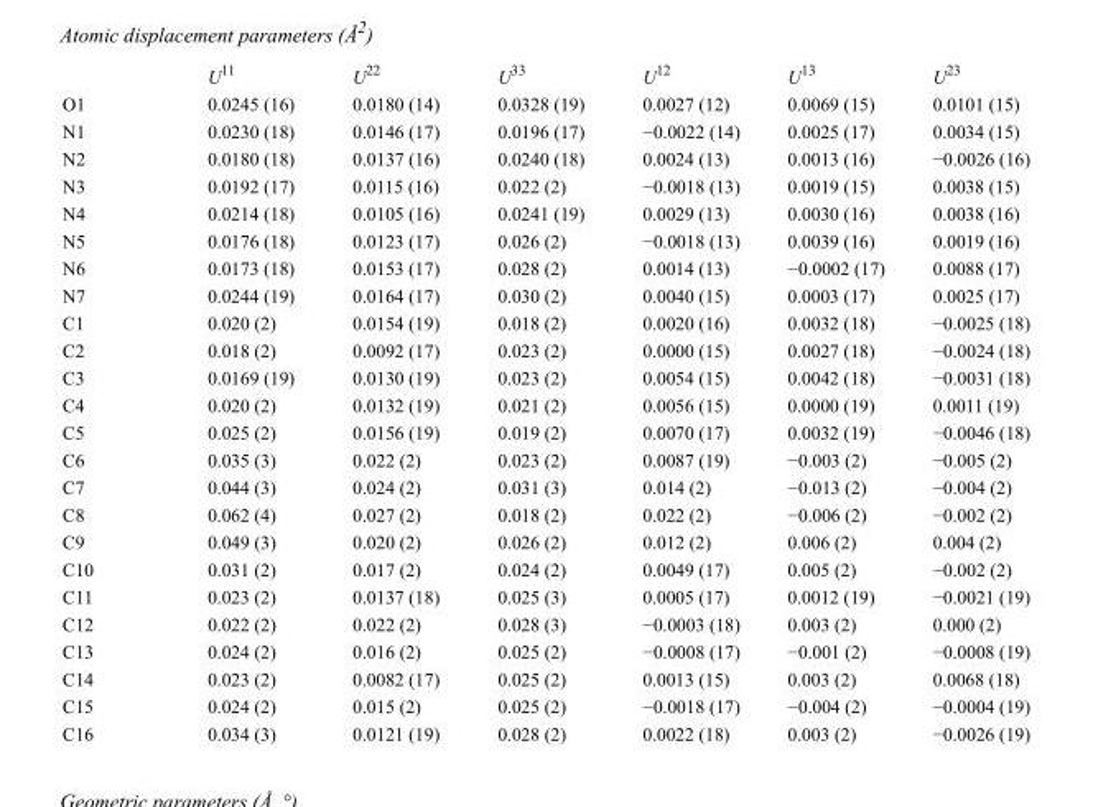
<table><thead><tr><td></td><td>U<sup>11</sup></td><td>U<sup>22</sup></td><td>U<sup>33</sup></td><td>U<sup>12</sup></td><td>U<sup>13</sup></td><td>U<sup>23</sup></td></tr></thead><tbody><tr><td>O1</td><td>0.0245 (16)</td><td>0.0180 (14)</td><td>0.0328 (19)</td><td>0.0027 (12)</td><td>0.0069 (15)</td><td>0.0101 (15)</td></tr><tr><td>N1</td><td>0.0230 (18)</td><td>0.0146 (17)</td><td>0.0196 (17)</td><td>−0.0022 (14)</td><td>0.0025 (17)</td><td>0.0034 (15)</td></tr><tr><td>N2</td><td>0.0180 (18)</td><td>0.0137 (16)</td><td>0.0240 (18)</td><td>0.0024 (13)</td><td>0.0013 (16)</td><td>−0.0026 (16)</td></tr><tr><td>N3</td><td>0.0192 (17)</td><td>0.0115 (16)</td><td>0.022 (2)</td><td>−0.0018 (13)</td><td>0.0019 (15)</td><td>0.0038 (15)</td></tr><tr><td>N4</td><td>0.0214 (18)</td><td>0.0105 (16)</td><td>0.0241 (19)</td><td>0.0029 (13)</td><td>0.0030 (16)</td><td>0.0038 (16)</td></tr><tr><td>N5</td><td>0.0176 (18)</td><td>0.0123 (17)</td><td>0.026 (2)</td><td>−0.0018 (13)</td><td>0.0039 (16)</td><td>0.0019 (16)</td></tr><tr><td>N6</td><td>0.0173 (18)</td><td>0.0153 (17)</td><td>0.028 (2)</td><td>0.0014 (13)</td><td>−0.0002 (17)</td><td>0.0088 (17)</td></tr><tr><td>N7</td><td>0.0244 (19)</td><td>0.0164 (17)</td><td>0.030 (2)</td><td>0.0040 (15)</td><td>0.0003 (17)</td><td>0.0025 (17)</td></tr><tr><td>C1</td><td>0.020 (2)</td><td>0.0154 (19)</td><td>0.018 (2)</td><td>0.0020 (16)</td><td>0.0032 (18)</td><td>−0.0025 (18)</td></tr><tr><td>C2</td><td>0.018 (2)</td><td>0.0092 (17)</td><td>0.023 (2)</td><td>0.0000 (15)</td><td>0.0027 (18)</td><td>−0.0024 (18)</td></tr><tr><td>C3</td><td>0.0169 (19)</td><td>0.0130 (19)</td><td>0.023 (2)</td><td>0.0054 (15)</td><td>0.0042 (18)</td><td>−0.0031 (18)</td></tr><tr><td>C4</td><td>0.020 (2)</td><td>0.0132 (19)</td><td>0.021 (2)</td><td>0.0056 (15)</td><td>0.0000 (19)</td><td>0.0011 (19)</td></tr><tr><td>C5</td><td>0.025 (2)</td><td>0.0156 (19)</td><td>0.019 (2)</td><td>0.0070 (17)</td><td>0.0032 (19)</td><td>−0.0046 (18)</td></tr><tr><td>C6</td><td>0.035 (3)</td><td>0.022 (2)</td><td>0.023 (2)</td><td>0.0087 (19)</td><td>−0.003 (2)</td><td>−0.005 (2)</td></tr><tr><td>C7</td><td>0.044 (3)</td><td>0.024 (2)</td><td>0.031 (3)</td><td>0.014 (2)</td><td>−0.013 (2)</td><td>−0.004 (2)</td></tr><tr><td>C8</td><td>0.062 (4)</td><td>0.027 (2)</td><td>0.018 (2)</td><td>0.022 (2)</td><td>−0.006 (2)</td><td>−0.002 (2)</td></tr><tr><td>C9</td><td>0.049 (3)</td><td>0.020 (2)</td><td>0.026 (2)</td><td>0.012 (2)</td><td>0.006 (2)</td><td>0.004 (2)</td></tr><tr><td>C10</td><td>0.031 (2)</td><td>0.017 (2)</td><td>0.024 (2)</td><td>0.0049 (17)</td><td>0.005 (2)</td><td>−0.002 (2)</td></tr><tr><td>C11</td><td>0.023 (2)</td><td>0.0137 (18)</td><td>0.025 (3)</td><td>0.0005 (17)</td><td>0.0012 (19)</td><td>−0.0021 (19)</td></tr><tr><td>C12</td><td>0.022 (2)</td><td>0.022 (2)</td><td>0.028 (3)</td><td>−0.0003 (18)</td><td>0.003 (2)</td><td>0.000 (2)</td></tr><tr><td>C13</td><td>0.024 (2)</td><td>0.016 (2)</td><td>0.025 (2)</td><td>−0.0008 (17)</td><td>−0.001 (2)</td><td>−0.0008 (19)</td></tr><tr><td>C14</td><td>0.023 (2)</td><td>0.0082 (17)</td><td>0.025 (2)</td><td>0.0013 (15)</td><td>0.003 (2)</td><td>0.0068 (18)</td></tr><tr><td>C15</td><td>0.024 (2)</td><td>0.015 (2)</td><td>0.025 (2)</td><td>−0.0018 (17)</td><td>−0.004 (2)</td><td>−0.0004 (19)</td></tr><tr><td>C16</td><td>0.034 (3)</td><td>0.0121 (19)</td><td>0.028 (2)</td><td>0.0022 (18)</td><td>0.003 (2)</td><td>−0.0026 (19)</td></tr></tbody></table>